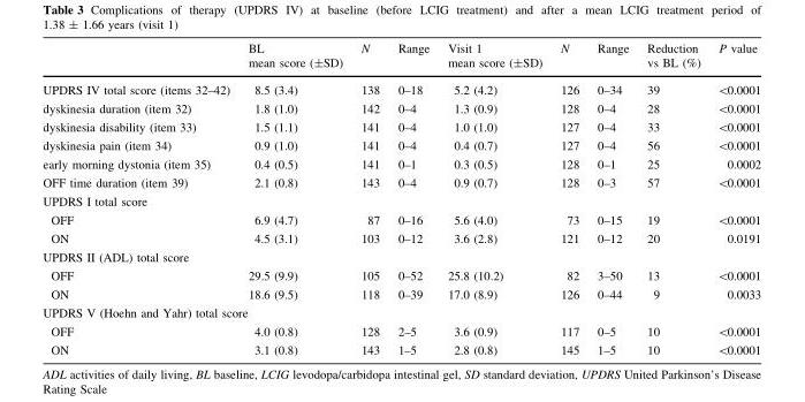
<table><thead><tr><td></td><td>BL mean score (±SD)</td><td>N</td><td>Range</td><td>Visit 1 mean score (±SD)</td><td>N</td><td>Range</td><td>Reduction vs BL (%)</td><td>P value</td></tr></thead><tbody><tr><td>UPDRS IV total score (items 32–42)</td><td>8.5 (3.4)</td><td>138</td><td>0–18</td><td>5.2 (4.2)</td><td>126</td><td>0–34</td><td>39</td><td>&lt;0.0001</td></tr><tr><td>dyskinesia duration (item 32)</td><td>1.8 (1.0)</td><td>142</td><td>0–4</td><td>1.3 (0.9)</td><td>128</td><td>0–4</td><td>28</td><td>&lt;0.0001</td></tr><tr><td>dyskinesia disability (item 33)</td><td>1.5 (1.1)</td><td>141</td><td>0–4</td><td>1.0 (1.0)</td><td>127</td><td>0–4</td><td>33</td><td>&lt;0.0001</td></tr><tr><td>dyskinesia pain (item 34)</td><td>0.9 (1.0)</td><td>141</td><td>0–4</td><td>0.4 (0.7)</td><td>127</td><td>0–4</td><td>56</td><td>&lt;0.0001</td></tr><tr><td>early morning dystonia (item 35)</td><td>0.4 (0.5)</td><td>141</td><td>0–1</td><td>0.3 (0.5)</td><td>128</td><td>0–1</td><td>25</td><td>0.0002</td></tr><tr><td>OFF time duration (item 39)</td><td>2.1 (0.8)</td><td>143</td><td>0–4</td><td>0.9 (0.7)</td><td>128</td><td>0–3</td><td>57</td><td>&lt;0.0001</td></tr><tr><td colspan="9">UPDRS I total score</td></tr><tr><td>OFF</td><td>6.9 (4.7)</td><td>87</td><td>0–16</td><td>5.6 (4.0)</td><td>73</td><td>0–15</td><td>19</td><td>&lt;0.0001</td></tr><tr><td>ON</td><td>4.5 (3.1)</td><td>103</td><td>0–12</td><td>3.6 (2.8)</td><td>121</td><td>0–12</td><td>20</td><td>0.0191</td></tr><tr><td colspan="9">UPDRS II (ADL) total score</td></tr><tr><td>OFF</td><td>29.5 (9.9)</td><td>105</td><td>0–52</td><td>25.8 (10.2)</td><td>82</td><td>3–50</td><td>13</td><td>&lt;0.0001</td></tr><tr><td>ON</td><td>18.6 (9.5)</td><td>118</td><td>0–39</td><td>17.0 (8.9)</td><td>126</td><td>0–44</td><td>9</td><td>0.0033</td></tr><tr><td colspan="9">UPDRS V (Hoehn and Yahr) total score</td></tr><tr><td>OFF</td><td>4.0 (0.8)</td><td>128</td><td>2–5</td><td>3.6 (0.9)</td><td>117</td><td>0–5</td><td>10</td><td>&lt;0.0001</td></tr><tr><td>ON</td><td>3.1 (0.8)</td><td>143</td><td>1–5</td><td>2.8 (0.8)</td><td>145</td><td>1–5</td><td>10</td><td>&lt;0.0001</td></tr></tbody></table>